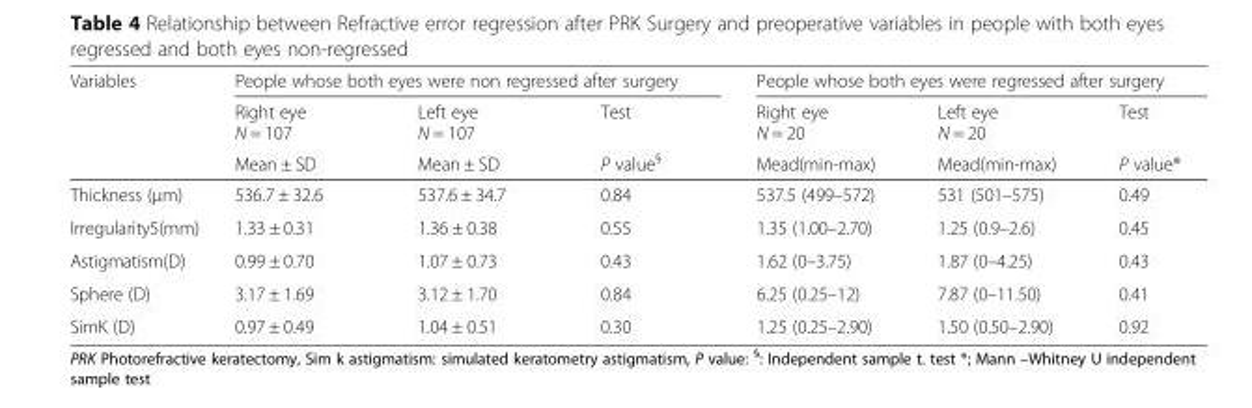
<table><thead><tr><td rowspan="3">Variables</td><td colspan="3">People whose both eyes were non regressed after surgery</td><td colspan="3">People whose both eyes were regressed after surgery</td></tr><tr><td rowspan="2">Right eye N = 107 Mean ± SD</td><td rowspan="2">Left eye N = 107 Mean ± SD</td><td rowspan="2">Test P value<sup>§</sup></td><td rowspan="2">Right eye N = 20 Mead(min-max)</td><td rowspan="2">Left eye N = 20 Mead(min-max)</td><td rowspan="2">Test P value®</td></tr><tr></tr></thead><tbody><tr><td>Thickness (μm)</td><td>536.7 ± 32.6</td><td>537.6 ± 34.7</td><td>0.84</td><td>537.5 (499–572)</td><td>531 (501–575)</td><td>0.49</td></tr><tr><td>Irregularity5(mm)</td><td>1.33 ± 0.31</td><td>1.36 ± 0.38</td><td>0.55</td><td>1.35 (1.00–2.70)</td><td>1.25 (0.9–2.6)</td><td>0.45</td></tr><tr><td>Astigmatism(D)</td><td>0.99 ± 0.70</td><td>1.07 ± 0.73</td><td>0.43</td><td>1.62 (0–3.75)</td><td>1.87 (0–4.25)</td><td>0.43</td></tr><tr><td>Sphere (D)</td><td>3.17 ± 1.69</td><td>3.12 ± 1.70</td><td>0.84</td><td>6.25 (0.25–12)</td><td>7.87 (0–11.50)</td><td>0.41</td></tr><tr><td>SimK (D)</td><td>0.97 ± 0.49</td><td>1.04 ± 0.51</td><td>0.30</td><td>1.25 (0.25–2.90)</td><td>1.50 (0.50–2.90)</td><td>0.92</td></tr></tbody></table>